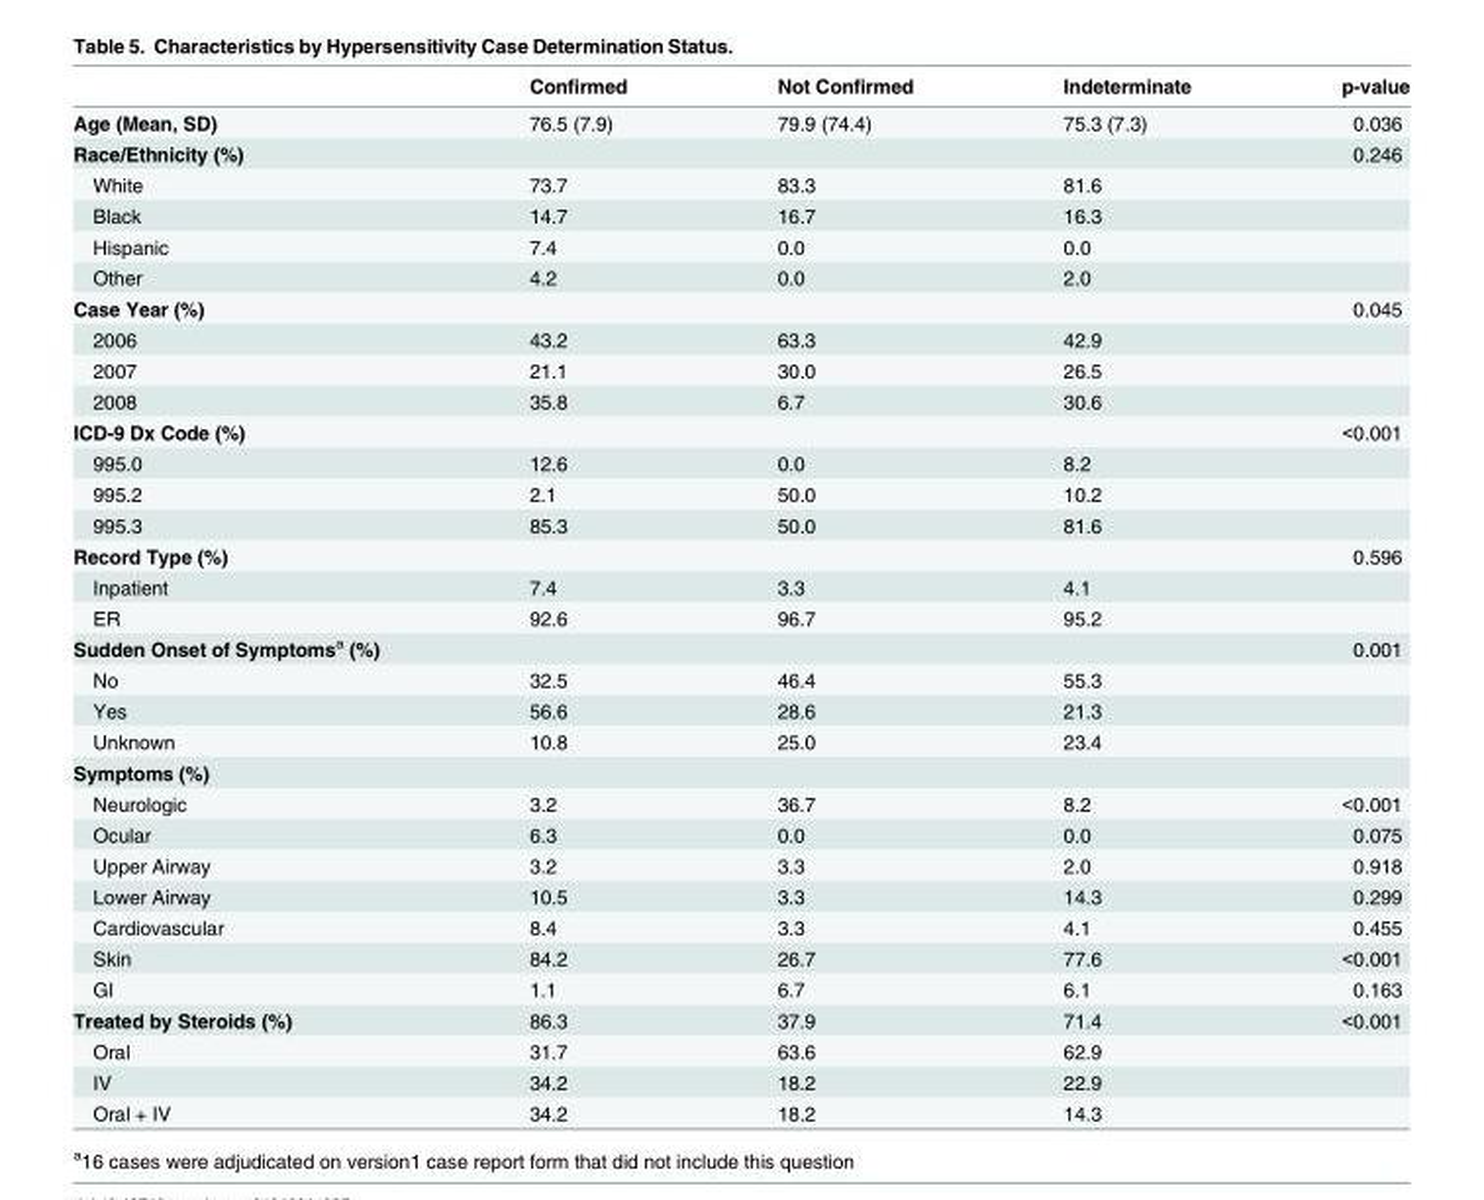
<table><thead><tr><td></td><td>Confirmed</td><td>Not Confirmed</td><td>Indeterminate</td><td>p-value</td></tr></thead><tbody><tr><td>Age (Mean, SD)</td><td>76.5 (7.9)</td><td>79.9 (74.4)</td><td>75.3 (7.3)</td><td>0.036</td></tr><tr><td>Race/Ethnicity (%)</td><td></td><td></td><td></td><td>0.246</td></tr><tr><td>White</td><td>73.7</td><td>83.3</td><td>81.6</td><td></td></tr><tr><td>Black</td><td>14.7</td><td>16.7</td><td>16.3</td><td></td></tr><tr><td>Hispanic</td><td>7.4</td><td>0.0</td><td>0.0</td><td></td></tr><tr><td>Other</td><td>4.2</td><td>0.0</td><td>2.0</td><td></td></tr><tr><td>Case Year (%)</td><td></td><td></td><td></td><td>0.045</td></tr><tr><td>2006</td><td>43.2</td><td>63.3</td><td>42.9</td><td></td></tr><tr><td>2007</td><td>21.1</td><td>30.0</td><td>26.5</td><td></td></tr><tr><td>2008</td><td>35.8</td><td>6.7</td><td>30.6</td><td></td></tr><tr><td>ICD-9 Dx Code (%)</td><td></td><td></td><td></td><td>&lt;0.001</td></tr><tr><td>995.0</td><td>12.6</td><td>0.0</td><td>8.2</td><td></td></tr><tr><td>995.2</td><td>2.1</td><td>50.0</td><td>10.2</td><td></td></tr><tr><td>995.3</td><td>85.3</td><td>50.0</td><td>81.6</td><td></td></tr><tr><td>Record Type (%)</td><td></td><td></td><td></td><td>0.596</td></tr><tr><td>Inpatient</td><td>7.4</td><td>3.3</td><td>4.1</td><td></td></tr><tr><td>ER</td><td>92.6</td><td>96.7</td><td>95.2</td><td></td></tr><tr><td>Sudden Onset of Symptoms<sup>a</sup> (%)</td><td></td><td></td><td></td><td>0.001</td></tr><tr><td>No</td><td>32.5</td><td>46.4</td><td>55.3</td><td></td></tr><tr><td>Yes</td><td>56.6</td><td>28.6</td><td>21.3</td><td></td></tr><tr><td>Unknown</td><td>10.8</td><td>25.0</td><td>23.4</td><td></td></tr><tr><td colspan="5">Symptoms (%)</td></tr><tr><td>Neurologic</td><td>3.2</td><td>36.7</td><td>8.2</td><td>&lt;0.001</td></tr><tr><td>Ocular</td><td>6.3</td><td>0.0</td><td>0.0</td><td>0.075</td></tr><tr><td>Upper Airway</td><td>3.2</td><td>3.3</td><td>2.0</td><td>0.918</td></tr><tr><td>Lower Airway</td><td>10.5</td><td>3.3</td><td>14.3</td><td>0.299</td></tr><tr><td>Cardiovascular</td><td>8.4</td><td>3.3</td><td>4.1</td><td>0.455</td></tr><tr><td>Skin</td><td>84.2</td><td>26.7</td><td>77.6</td><td>&lt;0.001</td></tr><tr><td>GI</td><td>1.1</td><td>6.7</td><td>6.1</td><td>0.163</td></tr><tr><td>Treated by Steroids (%)</td><td>86.3</td><td>37.9</td><td>71.4</td><td>&lt;0.001</td></tr><tr><td>Oral</td><td>31.7</td><td>63.6</td><td>62.9</td><td></td></tr><tr><td>IV</td><td>34.2</td><td>18.2</td><td>22.9</td><td></td></tr><tr><td>Oral + IV</td><td>34.2</td><td>18.2</td><td>14.3</td><td></td></tr></tbody></table>